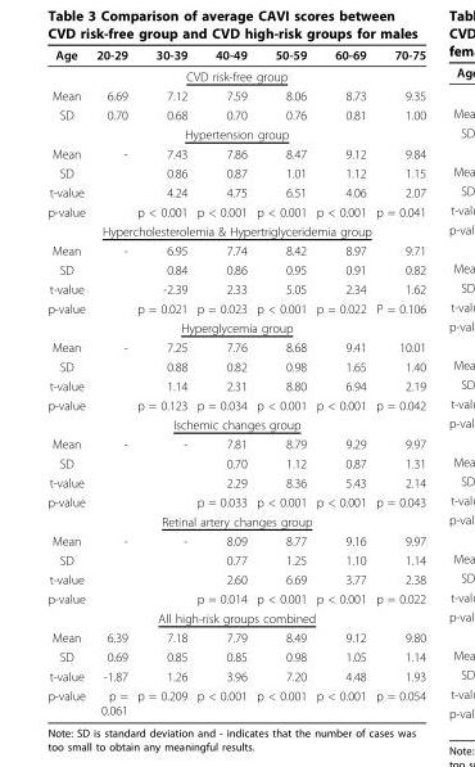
<table><thead><tr><td>Age</td><td>20-29</td><td>30-39</td><td>40-49</td><td>50-59</td><td>60-69</td><td>70-75</td></tr></thead><tbody><tr><td colspan="7">CVD risk-free group</td></tr><tr><td>Mean</td><td>6.69</td><td>7.12</td><td>7.59</td><td>8.06</td><td>8.73</td><td>9.35</td></tr><tr><td>SD</td><td>0.70</td><td>0.68</td><td>0.70</td><td>0.76</td><td>0.81</td><td>1.00</td></tr><tr><td colspan="7">Hypertension group</td></tr><tr><td>Mean</td><td>-</td><td>7.43</td><td>7.86</td><td>8.47</td><td>9.12</td><td>9.84</td></tr><tr><td>SD</td><td></td><td>0.86</td><td>0.87</td><td>1.01</td><td>1.12</td><td>1.15</td></tr><tr><td>t-value</td><td></td><td>4.24</td><td>4.75</td><td>6.51</td><td>4.06</td><td>2.07</td></tr><tr><td>p-value</td><td></td><td>p &lt; 0.001</td><td>p &lt; 0.001</td><td>p &lt; 0.001</td><td>p &lt; 0.001</td><td>p = 0.041</td></tr><tr><td colspan="7">Hypercholesterolemia &amp; Hypertriglyceridemia group</td></tr><tr><td>Mean</td><td>-</td><td>6.95</td><td>7.74</td><td>8.42</td><td>8.97</td><td>9.71</td></tr><tr><td>SD</td><td></td><td>0.84</td><td>0.86</td><td>0.95</td><td>0.91</td><td>0.82</td></tr><tr><td>t-value</td><td></td><td>-2.39</td><td>2.33</td><td>5.05</td><td>2.34</td><td>1.62</td></tr><tr><td>p-value</td><td></td><td>p = 0.021</td><td>p = 0.023</td><td>p &lt; 0.001</td><td>p = 0.022</td><td>P = 0.106</td></tr><tr><td colspan="7">Hyperglycemia group</td></tr><tr><td>Mean</td><td>-</td><td>7.25</td><td>7.76</td><td>8.68</td><td>9.41</td><td>10.01</td></tr><tr><td>SD</td><td></td><td>0.88</td><td>0.82</td><td>0.98</td><td>1.65</td><td>1.40</td></tr><tr><td>t-value</td><td></td><td>1.14</td><td>2.31</td><td>8.80</td><td>6.94</td><td>2.19</td></tr><tr><td>p-value</td><td></td><td>p = 0.123</td><td>p = 0.034</td><td>p &lt; 0.001</td><td>p &lt; 0.001</td><td>p = 0.042</td></tr><tr><td colspan="7">Ischemic changes group</td></tr><tr><td>Mean</td><td>-</td><td>-</td><td>7.81</td><td>8.79</td><td>9.29</td><td>9.97</td></tr><tr><td>SD</td><td></td><td></td><td>0.70</td><td>1.12</td><td>0.87</td><td>1.31</td></tr><tr><td>t-value</td><td></td><td></td><td>2.29</td><td>8.36</td><td>5.43</td><td>2.14</td></tr><tr><td>p-value</td><td></td><td></td><td>p = 0.033</td><td>p &lt; 0.001</td><td>p &lt; 0.001</td><td>p = 0.043</td></tr><tr><td colspan="7">Retinal artery changes group</td></tr><tr><td>Mean</td><td>-</td><td>-</td><td>8.09</td><td>8.77</td><td>9.16</td><td>9.97</td></tr><tr><td>SD</td><td></td><td></td><td>0.77</td><td>1.25</td><td>1.10</td><td>1.14</td></tr><tr><td>t-value</td><td></td><td></td><td>2.60</td><td>6.69</td><td>3.77</td><td>2.38</td></tr><tr><td>p-value</td><td></td><td></td><td>p = 0.014</td><td>p &lt; 0.001</td><td>p &lt; 0.001</td><td>p = 0.022</td></tr><tr><td colspan="7">All high-risk groups combined</td></tr><tr><td>Mean</td><td>6.39</td><td>7.18</td><td>7.79</td><td>8.49</td><td>9.12</td><td>9.80</td></tr><tr><td>SD</td><td>0.69</td><td>0.85</td><td>0.85</td><td>0.98</td><td>1.05</td><td>1.14</td></tr><tr><td>t-value</td><td>-1.87</td><td>1.26</td><td>3.96</td><td>7.20</td><td>4.48</td><td>1.93</td></tr><tr><td>p-value</td><td>p = 0.061</td><td>p = 0.209</td><td>p &lt; 0.001</td><td>p &lt; 0.001</td><td>p &lt; 0.001</td><td>p = 0.054</td></tr></tbody></table>